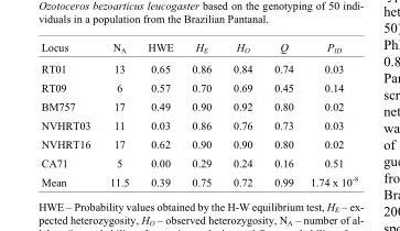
<table><thead><tr><td>Locus</td><td>N<sub>A</sub></td><td>HWE</td><td>H<sub>E</sub></td><td>H<sub>O</sub></td><td>Q</td><td>P<sub>ID</sub></td></tr></thead><tbody><tr><td>RT01</td><td>13</td><td>0.65</td><td>0.86</td><td>0.84</td><td>0.74</td><td>0.03</td></tr><tr><td>RT09</td><td>6</td><td>0.57</td><td>0.70</td><td>0.69</td><td>0.45</td><td>0.14</td></tr><tr><td>BM757</td><td>17</td><td>0.49</td><td>0.90</td><td>0.92</td><td>0.80</td><td>0.02</td></tr><tr><td>NVHRT03</td><td>11</td><td>0.03</td><td>0.86</td><td>0.76</td><td>0.73</td><td>0.03</td></tr><tr><td>NVHRT16</td><td>17</td><td>0.62</td><td>0.90</td><td>0.90</td><td>0.80</td><td>0.02</td></tr><tr><td>CA71</td><td>5</td><td>0.00</td><td>0.29</td><td>0.24</td><td>0.16</td><td>0.51</td></tr><tr><td>Mean</td><td>11.5</td><td>0.39</td><td>0.75</td><td>0.72</td><td>0.99</td><td>1.74 x 10-8</td></tr></tbody></table>